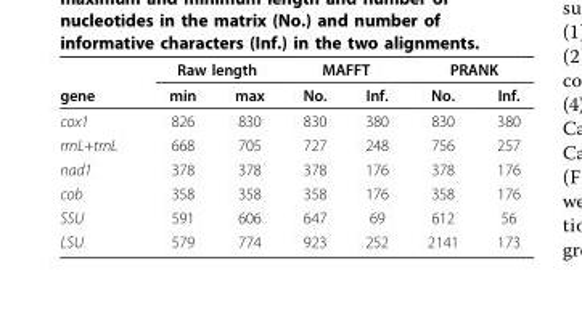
<table><thead><tr><td rowspan="2">gene</td><td colspan="2">Raw length</td><td colspan="2">MAFFT</td><td colspan="2">PRANK</td></tr><tr><td>min</td><td>max</td><td>No.</td><td>Inf.</td><td>No.</td><td>Inf.</td></tr></thead><tbody><tr><td>cox1</td><td>826</td><td>830</td><td>830</td><td>380</td><td>830</td><td>380</td></tr><tr><td>rrnL+trnL</td><td>668</td><td>705</td><td>727</td><td>248</td><td>756</td><td>257</td></tr><tr><td>nad1</td><td>378</td><td>378</td><td>378</td><td>176</td><td>378</td><td>176</td></tr><tr><td>cob</td><td>358</td><td>358</td><td>358</td><td>176</td><td>358</td><td>176</td></tr><tr><td>SSU</td><td>591</td><td>606</td><td>647</td><td>69</td><td>612</td><td>56</td></tr><tr><td>LSU</td><td>579</td><td>774</td><td>923</td><td>252</td><td>2141</td><td>173</td></tr></tbody></table>